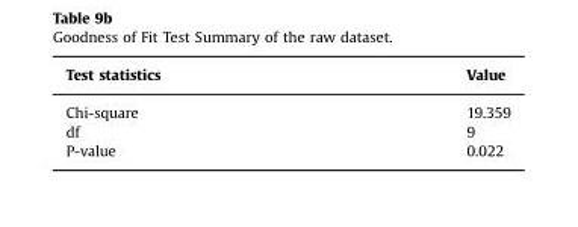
<table><thead><tr><td>Test statistics</td><td>Value</td></tr></thead><tbody><tr><td>Chi-square</td><td>19.359</td></tr><tr><td>df</td><td>9</td></tr><tr><td>P-value</td><td>0.022</td></tr></tbody></table>